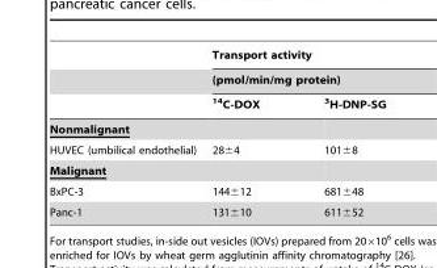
<table><thead><tr><td rowspan="3"></td><td rowspan="2" colspan="2">Transport activity (pmol/min/mg protein)</td></tr><tr></tr><tr><td><sup>14</sup>C-DOX</td><td><sup>3</sup>H-DNP-SG</td></tr></thead><tbody><tr><td colspan="3">Nonmalignant</td></tr><tr><td>HUVEC (umbilical endothelial)</td><td>28±4</td><td>101±8</td></tr><tr><td colspan="3">Malignant</td></tr><tr><td>BxPC-3</td><td>144±12</td><td>681±48</td></tr><tr><td>Panc-1</td><td>131±10</td><td>611±52</td></tr></tbody></table>